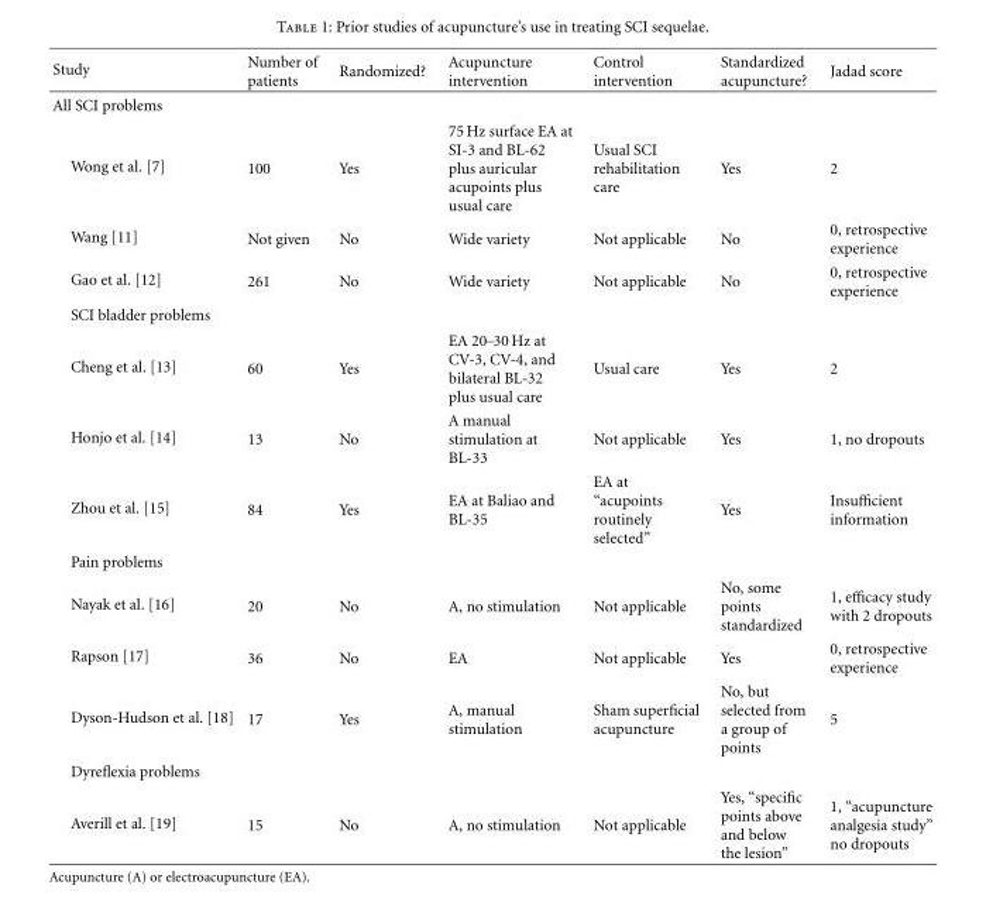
<table><thead><tr><td>Study</td><td>Number of patients</td><td>Randomized?</td><td>Acupuncture intervention</td><td>Control intervention</td><td>Standardized acupuncture?</td><td>Jadad score</td></tr></thead><tbody><tr><td colspan="7">All SCI problems</td></tr><tr><td>Wong et al. [7]</td><td>100</td><td>Yes</td><td>75 Hz surface EA at SI-3 and BL-62 plus auricular acupoints plus usual care</td><td>Usual SCI rehabilitation care</td><td>Yes</td><td>2</td></tr><tr><td>Wang [11]</td><td>Not given</td><td>No</td><td>Wide variety</td><td>Not applicable</td><td>No</td><td>0, retrospective experience</td></tr><tr><td>Gao et al. [12]</td><td>261</td><td>No</td><td>Wide variety</td><td>Not applicable</td><td>No</td><td>0, retrospective experience</td></tr><tr><td colspan="7">SCI bladder problems</td></tr><tr><td>Cheng et al. [13]</td><td>60</td><td>Yes</td><td>EA 20−30 Hz at CV-3, CV-4, and bilateral BL-32 plus usual care</td><td>Usual care</td><td>Yes</td><td>2</td></tr><tr><td>Honjo et al. [14]</td><td>13</td><td>No</td><td>A manual stimulation at BL-33</td><td>Not applicable</td><td>Yes</td><td>1, no dropouts</td></tr><tr><td>Zhou et al. [15]</td><td>84</td><td>Yes</td><td>EA at Baliao and BL-35</td><td>EA at “acupoints routinely selected”</td><td>Yes</td><td>Insufficient information</td></tr><tr><td colspan="7">Pain problems</td></tr><tr><td>Nayak et al. [16]</td><td>20</td><td>No</td><td>A, no stimulation</td><td>Not applicable</td><td>No, some points standardized</td><td>1, efficacy study with 2 dropouts</td></tr><tr><td>Rapson [17]</td><td>36</td><td>No</td><td>EA</td><td>Not applicable</td><td>Yes</td><td>0, retrospective experience</td></tr><tr><td>Dyson-Hudson et al. [18]</td><td>17</td><td>Yes</td><td>A, manual stimulation</td><td>Sham superficial acupuncture</td><td>No, but selected from a group of points</td><td>5</td></tr><tr><td colspan="7">Dyreflexia problems</td></tr><tr><td>Averill et al. [19]</td><td>15</td><td>No</td><td>A, no stimulation</td><td>Not applicable</td><td>Yes, “specific points above and below the lesion”</td><td>1, “acupuncture analgesia study” no dropouts</td></tr></tbody></table>